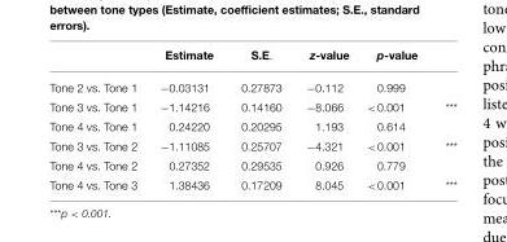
<table><thead><tr><td></td><td>Estimate</td><td>S.E.</td><td>z-value</td><td>p-value</td><td></td></tr></thead><tbody><tr><td>Tone 2 vs. Tone 1</td><td>−0.03131</td><td>0.27873</td><td>−0.112</td><td>0.999</td><td></td></tr><tr><td>Tone 3 vs. Tone 1</td><td>−1.14216</td><td>0.14160</td><td>−8.066</td><td>&lt;0.001</td><td>***</td></tr><tr><td>Tone 4 vs. Tone 1</td><td>0.24220</td><td>0.20295</td><td>1.193</td><td>0.614</td><td></td></tr><tr><td>Tone 3 vs. Tone 2</td><td>−1.11085</td><td>0.25707</td><td>−4.321</td><td>&lt;0.001</td><td>***</td></tr><tr><td>Tone 4 vs. Tone 2</td><td>0.27352</td><td>0.29535</td><td>0.926</td><td>0.779</td><td></td></tr><tr><td>Tone 4 vs. Tone 3</td><td>1.38436</td><td>0.17209</td><td>8.045</td><td>&lt;0.001</td><td>***</td></tr></tbody></table>